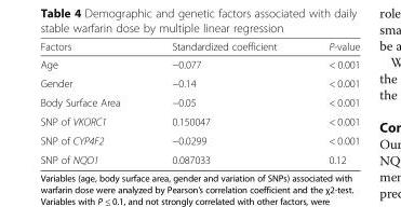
<table><thead><tr><td>Factors</td><td>Standardized coefficient</td><td>P-value</td></tr></thead><tbody><tr><td>Age</td><td>−0.077</td><td>&lt; 0.001</td></tr><tr><td>Gender</td><td>−0.14</td><td>&lt; 0.001</td></tr><tr><td>Body Surface Area</td><td>−0.05</td><td>&lt; 0.001</td></tr><tr><td>SNP of VKORC1</td><td>0.150047</td><td>&lt; 0.001</td></tr><tr><td>SNP of CYP4F2</td><td>−0.0299</td><td>&lt; 0.001</td></tr><tr><td>SNP of NQO1</td><td>0.087033</td><td>0.12</td></tr></tbody></table>